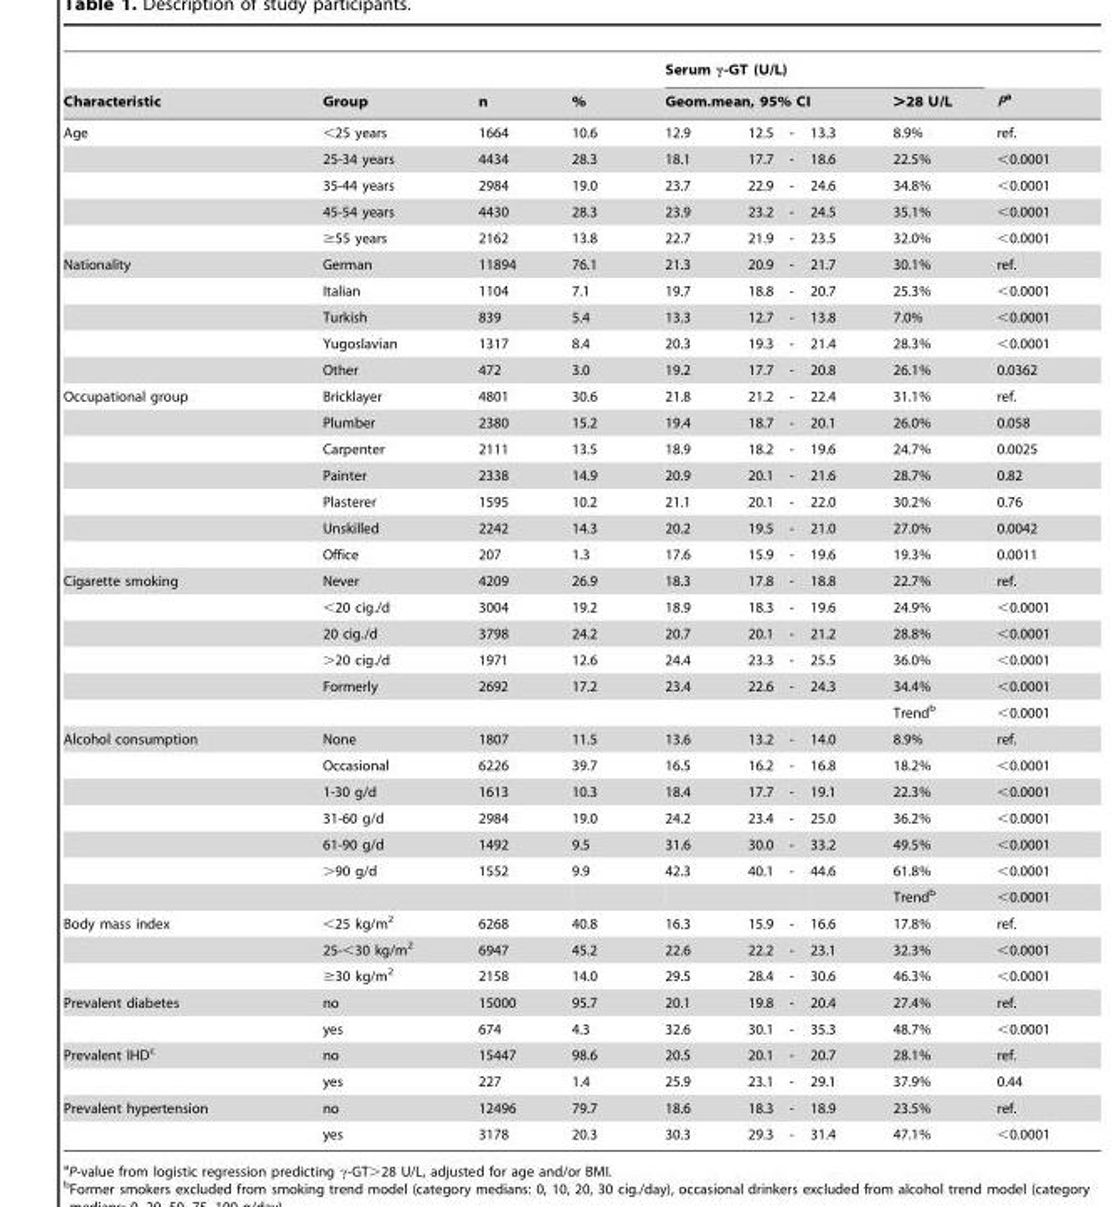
<table><thead><tr><td rowspan="3">Characteristic Age</td><td rowspan="3">Group &lt;25 years</td><td rowspan="3">n 1664</td><td rowspan="3">% 10.6</td><td colspan="5">Serum γ-GT (U/L)</td><td rowspan="3">Pa ref.</td></tr><tr><td colspan="4">Geom.mean, 95% CI</td><td rowspan="2">&gt;28 U/L 8.9%</td></tr><tr><td>12.9</td><td>12.5</td><td>-</td><td>13.3</td></tr></thead><tbody><tr><td></td><td>25-34 years</td><td>4434</td><td>28.3</td><td>18.1</td><td>17.7</td><td>-</td><td>18.6</td><td>22.5%</td><td>&lt;0.0001</td></tr><tr><td></td><td>35-44 years</td><td>2984</td><td>19.0</td><td>23.7</td><td>22.9</td><td>-</td><td>24.6</td><td>34.8%</td><td>&lt;0.0001</td></tr><tr><td></td><td>45-54 years</td><td>4430</td><td>28.3</td><td>23.9</td><td>23.2</td><td>-</td><td>24.5</td><td>35.1%</td><td>&lt;0.0001</td></tr><tr><td></td><td>≥55 years</td><td>2162</td><td>13.8</td><td>22.7</td><td>21.9</td><td>-</td><td>23.5</td><td>32.0%</td><td>&lt;0.0001</td></tr><tr><td rowspan="5">Nationality</td><td>German</td><td>11894</td><td>76.1</td><td>21.3</td><td>20.9</td><td>-</td><td>21.7</td><td>30.1%</td><td>ref.</td></tr><tr><td>Italian</td><td>1104</td><td>7.1</td><td>19.7</td><td>18.8</td><td>-</td><td>20.7</td><td>25.3%</td><td>&lt;0.0001</td></tr><tr><td>Turkish</td><td>839</td><td>5.4</td><td>13.3</td><td>12.7</td><td>-</td><td>13.8</td><td>7.0%</td><td>&lt;0.0001</td></tr><tr><td>Yugoslavian</td><td>1317</td><td>8.4</td><td>20.3</td><td>19.3</td><td>-</td><td>21.4</td><td>28.3%</td><td>&lt;0.0001</td></tr><tr><td>Other</td><td>472</td><td>3.0</td><td>19.2</td><td>17.7</td><td>-</td><td>20.8</td><td>26.1%</td><td>0.0362</td></tr><tr><td rowspan="7">Occupational group</td><td>Bricklayer</td><td>4801</td><td>30.6</td><td>21.8</td><td>21.2</td><td>-</td><td>22.4</td><td>31.1%</td><td>ref.</td></tr><tr><td>Plumber</td><td>2380</td><td>15.2</td><td>19.4</td><td>18.7</td><td>-</td><td>20.1</td><td>26.0%</td><td>0.058</td></tr><tr><td>Carpenter</td><td>2111</td><td>13.5</td><td>18.9</td><td>18.2</td><td>-</td><td>19.6</td><td>24.7%</td><td>0.0025</td></tr><tr><td>Painter</td><td>2338</td><td>14.9</td><td>20.9</td><td>20.1</td><td>-</td><td>21.6</td><td>28.7%</td><td>0.82</td></tr><tr><td>Plasterer</td><td>1595</td><td>10.2</td><td>21.1</td><td>20.1</td><td>-</td><td>22.0</td><td>30.2%</td><td>0.76</td></tr><tr><td>Unskilled</td><td>2242</td><td>14.3</td><td>20.2</td><td>19.5</td><td>-</td><td>21.0</td><td>27.0%</td><td>0.0042</td></tr><tr><td>Office</td><td>207</td><td>1.3</td><td>17.6</td><td>15.9</td><td>-</td><td>19.6</td><td>19.3%</td><td>0.0011</td></tr><tr><td rowspan="6">Cigarette smoking</td><td>Never</td><td>4209</td><td>26.9</td><td>18.3</td><td>17.8</td><td>-</td><td>18.8</td><td>22.7%</td><td>ref.</td></tr><tr><td>&lt;20 cig./d</td><td>3004</td><td>19.2</td><td>18.9</td><td>18.3</td><td>-</td><td>19.6</td><td>24.9%</td><td>&lt;0.0001</td></tr><tr><td>20 cig./d</td><td>3798</td><td>24.2</td><td>20.7</td><td>20.1</td><td>-</td><td>21.2</td><td>28.8%</td><td>&lt;0.0001</td></tr><tr><td>&gt;20 cig./d</td><td>1971</td><td>12.6</td><td>24.4</td><td>23.3</td><td>-</td><td>25.5</td><td>36.0%</td><td>&lt;0.0001</td></tr><tr><td>Formerly</td><td>2692</td><td>17.2</td><td>23.4</td><td>22.6</td><td>-</td><td>24.3</td><td>34.4%</td><td>&lt;0.0001</td></tr><tr><td></td><td></td><td></td><td></td><td></td><td></td><td></td><td>Trend<sup>b</sup></td><td>&lt;0.0001</td></tr><tr><td rowspan="7">Alcohol consumption</td><td>None</td><td>1807</td><td>11.5</td><td>13.6</td><td>13.2</td><td>-</td><td>14.0</td><td>8.9%</td><td>ref.</td></tr><tr><td>Occasional</td><td>6226</td><td>39.7</td><td>16.5</td><td>16.2</td><td>-</td><td>16.8</td><td>18.2%</td><td>&lt;0.0001</td></tr><tr><td>1-30 g/d</td><td>1613</td><td>10.3</td><td>18.4</td><td>17.7</td><td>-</td><td>19.1</td><td>22.3%</td><td>&lt;0.0001</td></tr><tr><td>31-60 g/d</td><td>2984</td><td>19.0</td><td>24.2</td><td>23.4</td><td>-</td><td>25.0</td><td>36.2%</td><td>&lt;0.0001</td></tr><tr><td>61-90 g/d</td><td>1492</td><td>9.5</td><td>31.6</td><td>30.0</td><td>-</td><td>33.2</td><td>49.5%</td><td>&lt;0.0001</td></tr><tr><td>&gt;90 g/d</td><td>1552</td><td>9.9</td><td>42.3</td><td>40.1</td><td>-</td><td>44.6</td><td>61.8%</td><td>&lt;0.0001</td></tr><tr><td></td><td></td><td></td><td></td><td></td><td></td><td></td><td>Trend<sup>b</sup></td><td>&lt;0.0001</td></tr><tr><td rowspan="3">Body mass index</td><td>&lt;25 kg/m<sup>2</sup></td><td>6268</td><td>40.8</td><td>16.3</td><td>15.9</td><td>-</td><td>16.6</td><td>17.8%</td><td>ref.</td></tr><tr><td>25-&lt;30 kg/m<sup>2</sup></td><td>6947</td><td>45.2</td><td>22.6</td><td>22.2</td><td>-</td><td>23.1</td><td>32.3%</td><td>&lt;0.0001</td></tr><tr><td>≥30 kg/m<sup>2</sup></td><td>2158</td><td>14.0</td><td>29.5</td><td>28.4</td><td>-</td><td>30.6</td><td>46.3%</td><td>&lt;0.0001</td></tr><tr><td rowspan="2">Prevalent diabetes</td><td>no</td><td>15000</td><td>95.7</td><td>20.1</td><td>19.8</td><td>-</td><td>20.4</td><td>27.4%</td><td>ref.</td></tr><tr><td>yes</td><td>674</td><td>4.3</td><td>32.6</td><td>30.1</td><td>-</td><td>35.3</td><td>48.7%</td><td>&lt;0.0001</td></tr><tr><td rowspan="2">Prevalent IHD<sup>c</sup></td><td>no</td><td>15447</td><td>98.6</td><td>20.5</td><td>20.1</td><td>-</td><td>20.7</td><td>28.1%</td><td>ref.</td></tr><tr><td>yes</td><td>227</td><td>1.4</td><td>25.9</td><td>23.1</td><td>-</td><td>29.1</td><td>37.9%</td><td>0.44</td></tr><tr><td rowspan="2">Prevalent hypertension</td><td>no</td><td>12496</td><td>79.7</td><td>18.6</td><td>18.3</td><td>-</td><td>18.9</td><td>23.5%</td><td>ref.</td></tr><tr><td>yes</td><td>3178</td><td>20.3</td><td>30.3</td><td>29.3</td><td>-</td><td>31.4</td><td>47.1%</td><td>&lt;0.0001</td></tr></tbody></table>